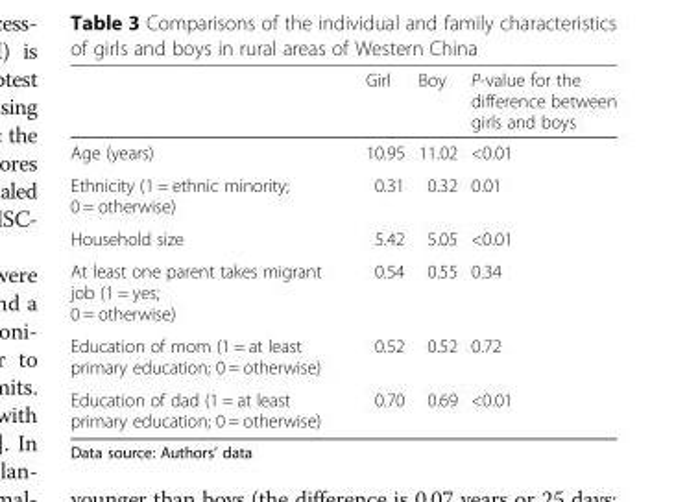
<table><thead><tr><td></td><td>Girl</td><td>Boy</td><td>P-value for the difference between girls and boys</td></tr></thead><tbody><tr><td>Age (years)</td><td>10.95</td><td>11.02</td><td>&lt;0.01</td></tr><tr><td>Ethnicity (1 = ethnic minority; 0 = otherwise)</td><td>0.31</td><td>0.32</td><td>0.01</td></tr><tr><td>Household size</td><td>5.42</td><td>5.05</td><td>&lt;0.01</td></tr><tr><td>At least one parent takes migrant job (1 = yes; 0 = otherwise)</td><td>0.54</td><td>0.55</td><td>0.34</td></tr><tr><td>Education of mom (1 = at least primary education; 0 = otherwise)</td><td>0.52</td><td>0.52</td><td>0.72</td></tr><tr><td>Education of dad (1 = at least primary education; 0 = otherwise)</td><td>0.70</td><td>0.69</td><td>&lt;0.01</td></tr></tbody></table>